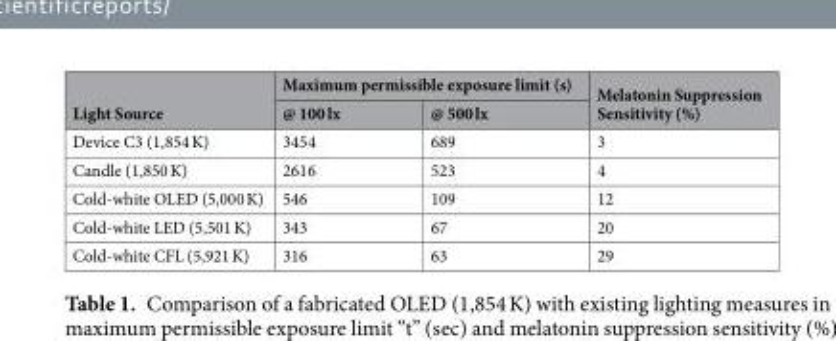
<table><thead><tr><td rowspan="2">Light Source</td><td colspan="2">Maximum permissible exposure limit (s)</td><td rowspan="2">Melatonin Suppression Sensitivity (%)</td></tr><tr><td>@ 100 lx</td><td>@ 500 lx</td></tr></thead><tbody><tr><td>Device C3 (1,854 K)</td><td>3454</td><td>689</td><td>3</td></tr><tr><td>Candle (1,850 K)</td><td>2616</td><td>523</td><td>4</td></tr><tr><td>Cold-white OLED (5,000 K)</td><td>546</td><td>109</td><td>12</td></tr><tr><td>Cold-white LED (5,501 K)</td><td>343</td><td>67</td><td>20</td></tr><tr><td>Cold-white CFL (5,921 K)</td><td>316</td><td>63</td><td>29</td></tr></tbody></table>